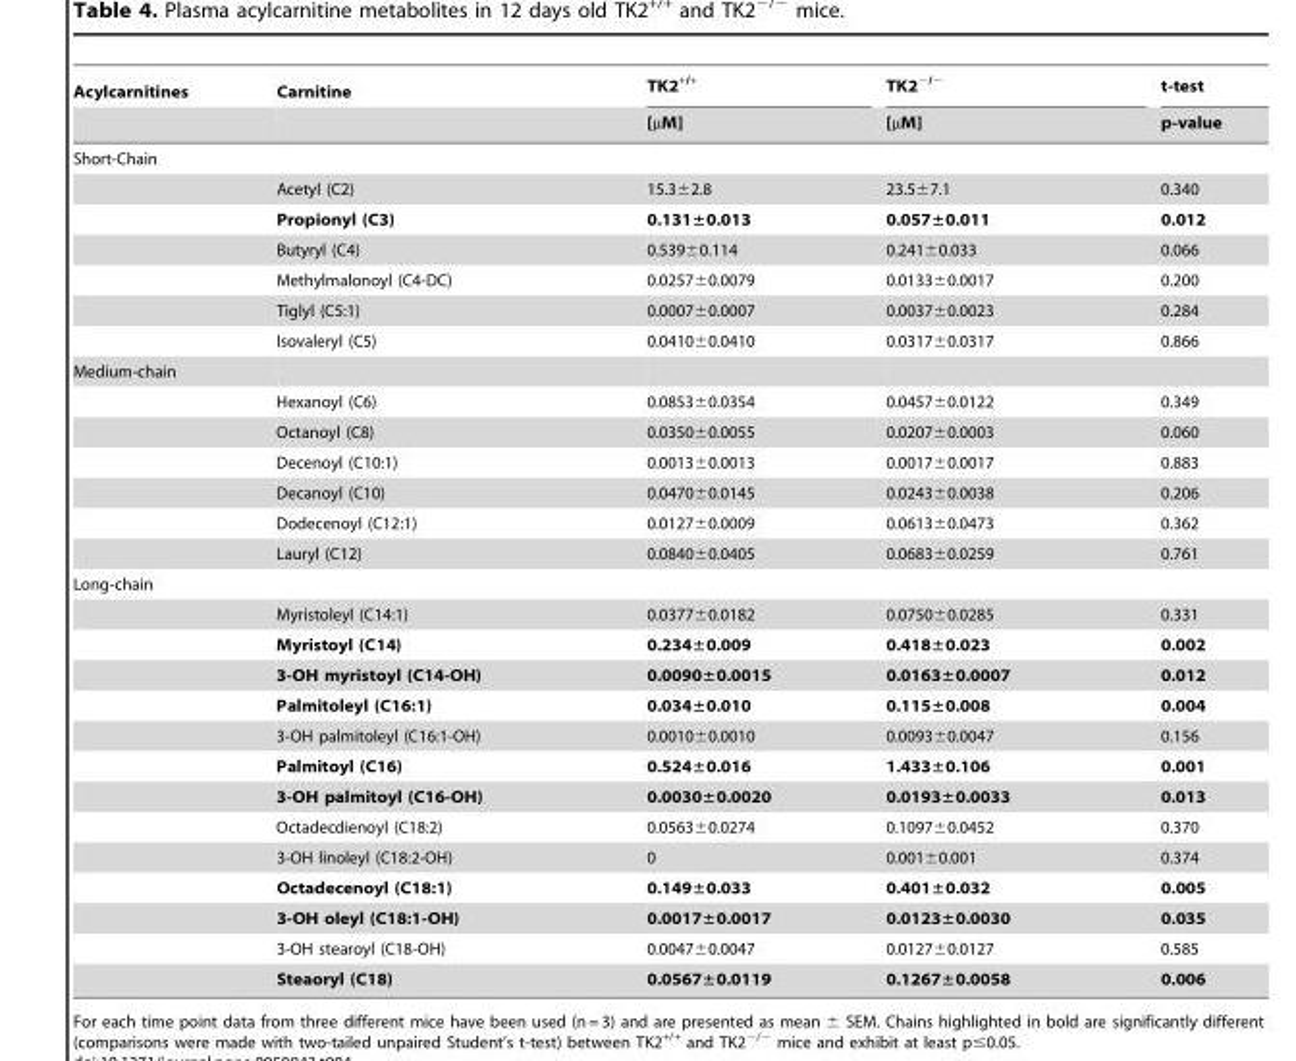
<table><thead><tr><td rowspan="2">Acylcarnitines</td><td rowspan="2">Carnitine</td><td rowspan="2">TK2<sup>+/+</sup> [µM]</td><td rowspan="2">TK2<sup>−/−</sup> [µM]</td><td rowspan="2">t-test p-value</td></tr><tr></tr></thead><tbody><tr><td colspan="5">Short-Chain</td></tr><tr><td></td><td>Acetyl (C2)</td><td>15.3±2.8</td><td>23.5±7.1</td><td>0.340</td></tr><tr><td></td><td>Propionyl (C3)</td><td>0.131±0.013</td><td>0.057±0.011</td><td>0.012</td></tr><tr><td></td><td>Butyryl (C4)</td><td>0.539±0.114</td><td>0.241±0.033</td><td>0.066</td></tr><tr><td></td><td>Methylmalonoyl (C4-DC)</td><td>0.0257±0.0079</td><td>0.0133±0.0017</td><td>0.200</td></tr><tr><td></td><td>Tiglyl (C5:1)</td><td>0.0007±0.0007</td><td>0.0037±0.0023</td><td>0.284</td></tr><tr><td></td><td>Isovaleryl (C5)</td><td>0.0410±0.0410</td><td>0.0317±0.0317</td><td>0.866</td></tr><tr><td colspan="5">Medium-chain</td></tr><tr><td></td><td>Hexanoyl (C6)</td><td>0.0853±0.0354</td><td>0.0457±0.0122</td><td>0.349</td></tr><tr><td></td><td>Octanoyl (C8)</td><td>0.0350±0.0055</td><td>0.0207±0.0003</td><td>0.060</td></tr><tr><td></td><td>Decenoyl (C10:1)</td><td>0.0013±0.0013</td><td>0.0017±0.0017</td><td>0.883</td></tr><tr><td></td><td>Decanoyl (C10)</td><td>0.0470±0.0145</td><td>0.0243±0.0038</td><td>0.206</td></tr><tr><td></td><td>Dodecenoyl (C12:1)</td><td>0.0127±0.0009</td><td>0.0613±0.0473</td><td>0.362</td></tr><tr><td></td><td>Lauryl (C12)</td><td>0.0840±0.0405</td><td>0.0683±0.0259</td><td>0.761</td></tr><tr><td colspan="5">Long-chain</td></tr><tr><td></td><td>Myristoleyl (C14:1)</td><td>0.0377±0.0182</td><td>0.0750±0.0285</td><td>0.331</td></tr><tr><td></td><td>Myristoyl (C14)</td><td>0.234±0.009</td><td>0.418±0.023</td><td>0.002</td></tr><tr><td></td><td>3-OH myristoyl (C14-OH)</td><td>0.0090±0.0015</td><td>0.0163±0.0007</td><td>0.012</td></tr><tr><td></td><td>Palmitoleyl (C16:1)</td><td>0.034±0.010</td><td>0.115±0.008</td><td>0.004</td></tr><tr><td></td><td>3-OH palmitoleyl (C16:1-OH)</td><td>0.0010±0.0010</td><td>0.0093±0.0047</td><td>0.156</td></tr><tr><td></td><td>Palmitoyl (C16)</td><td>0.524±0.016</td><td>1.433±0.106</td><td>0.001</td></tr><tr><td></td><td>3-OH palmitoyl (C16-OH)</td><td>0.0030±0.0020</td><td>0.0193±0.0033</td><td>0.013</td></tr><tr><td></td><td>Octadecdienoyl (C18:2)</td><td>0.0563±0.0274</td><td>0.1097±0.0452</td><td>0.370</td></tr><tr><td></td><td>3-OH linoleyl (C18:2-OH)</td><td>0</td><td>0.001±0.001</td><td>0.374</td></tr><tr><td></td><td>Octadecenoyl (C18:1)</td><td>0.149±0.033</td><td>0.401±0.032</td><td>0.005</td></tr><tr><td></td><td>3-OH oleyl (C18:1-OH)</td><td>0.0017±0.0017</td><td>0.0123±0.0030</td><td>0.035</td></tr><tr><td></td><td>3-OH stearoyl (C18-OH)</td><td>0.0047±0.0047</td><td>0.0127±0.0127</td><td>0.585</td></tr><tr><td></td><td>Steaoryl (C18)</td><td>0.0567±0.0119</td><td>0.1267±0.0058</td><td>0.006</td></tr></tbody></table>